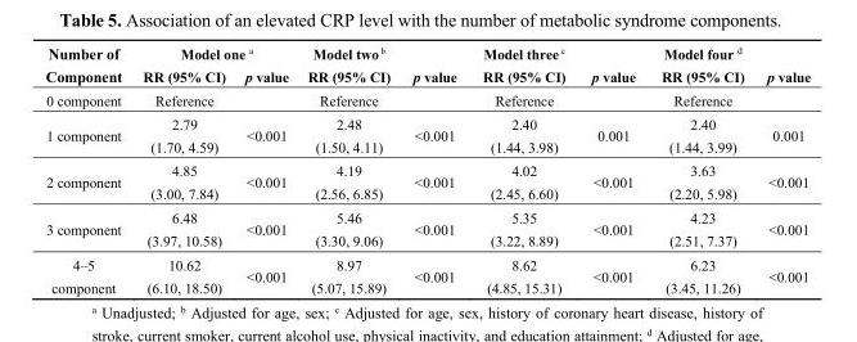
<table><thead><tr><td rowspan="2">Number of Component</td><td colspan="2">Model one <sup>a</sup></td><td rowspan="2">Model two <sup>b</sup> RR (95% CI)</td><td rowspan="2">p value</td><td rowspan="2">Model three <sup>c</sup> RR (95% CI)</td><td rowspan="2">p value</td><td rowspan="2">Model four <sup>d</sup> RR (95% CI)</td><td rowspan="2">p value</td></tr><tr><td>RR (95% CI)</td><td>p value</td></tr></thead><tbody><tr><td>0 component</td><td>Reference</td><td></td><td>Reference</td><td></td><td>Reference</td><td></td><td>Reference</td><td></td></tr><tr><td>1 component</td><td>2.79 (1.70, 4.59)</td><td>&lt;0.001</td><td>2.48 (1.50, 4.11)</td><td>&lt;0.001</td><td>2.40 (1.44, 3.98)</td><td>0.001</td><td>2.40 (1.44, 3.99)</td><td>0.001</td></tr><tr><td>2 component</td><td>4.85 (3.00, 7.84)</td><td>&lt;0.001</td><td>4.19 (2.56, 6.85)</td><td>&lt;0.001</td><td>4.02 (2.45, 6.60)</td><td>&lt;0.001</td><td>3.63 (2.20, 5.98)</td><td>&lt;0.001</td></tr><tr><td>3 component</td><td>6.48 (3.97, 10.58)</td><td>&lt;0.001</td><td>5.46 (3.30, 9.06)</td><td>&lt;0.001</td><td>5.35 (3.22, 8.89)</td><td>&lt;0.001</td><td>4.23 (2.51, 7.37)</td><td>&lt;0.001</td></tr><tr><td>4–5 component</td><td>10.62 (6.10, 18.50)</td><td>&lt;0.001</td><td>8.97 (5.07, 15.89)</td><td>&lt;0.001</td><td>8.62 (4.85, 15.31)</td><td>&lt;0.001</td><td>6.23 (3.45, 11.26)</td><td>&lt;0.001</td></tr></tbody></table>